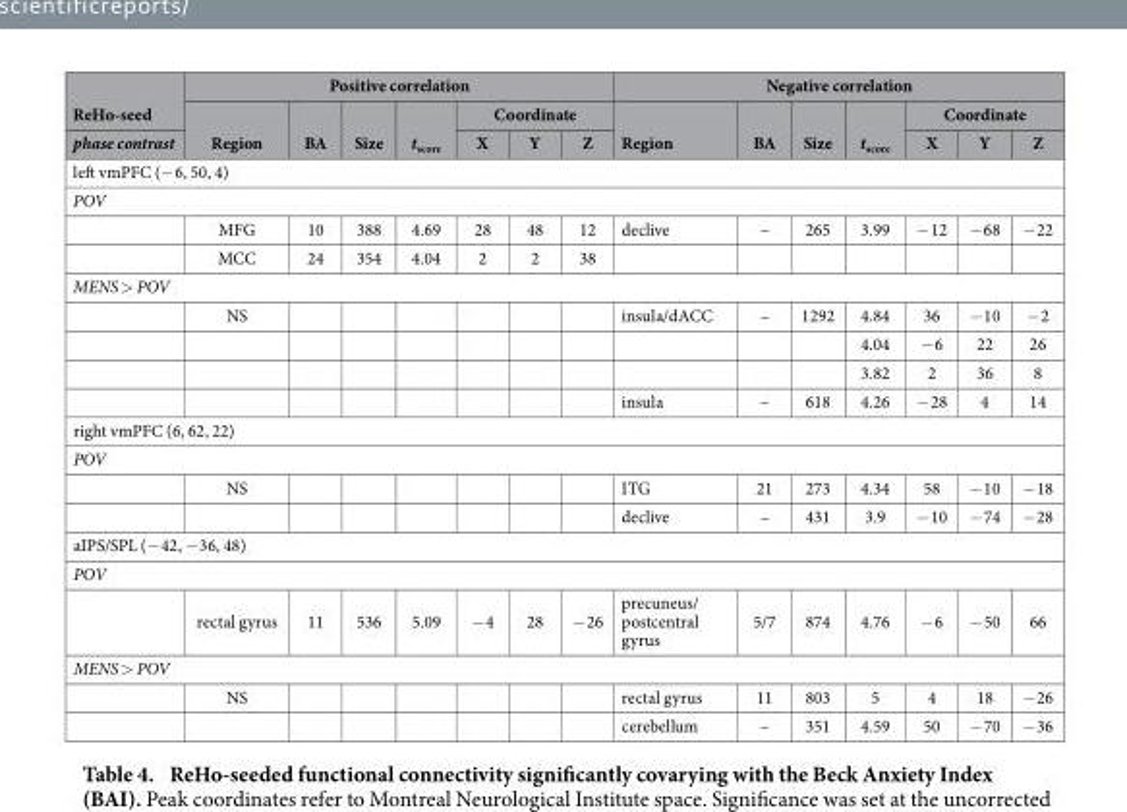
<table><thead><tr><td rowspan="3">ReHo-seed phase contrast</td><td colspan="7">Positive correlation</td><td colspan="7">Negative correlation</td></tr><tr><td rowspan="2">Region</td><td rowspan="2">BA</td><td rowspan="2">Size</td><td rowspan="2">t<sub>score</sub></td><td colspan="3">Coordinate</td><td rowspan="2">Region</td><td rowspan="2">BA</td><td rowspan="2">Size</td><td rowspan="2">t<sub>score</sub></td><td colspan="3">Coordinate</td></tr><tr><td>X</td><td>Y</td><td>Z</td><td>X</td><td>Y</td><td>Z</td></tr></thead><tbody><tr><td colspan="15">left vmPFC (− 6, 50, 4)</td></tr><tr><td colspan="15">POV</td></tr><tr><td></td><td>MFG</td><td>10</td><td>388</td><td>4.69</td><td>28</td><td>48</td><td>12</td><td>declive</td><td>–</td><td>265</td><td>3.99</td><td>− 12</td><td>− 68</td><td>− 22</td></tr><tr><td></td><td>MCC</td><td>24</td><td>354</td><td>4.04</td><td>2</td><td>2</td><td>38</td><td></td><td></td><td></td><td></td><td></td><td></td><td></td></tr><tr><td colspan="15">MENS &gt; POV</td></tr><tr><td></td><td>NS</td><td></td><td></td><td></td><td></td><td></td><td></td><td>insula/dACC</td><td>–</td><td>1292</td><td>4.84</td><td>36</td><td>− 10</td><td>− 2</td></tr><tr><td></td><td></td><td></td><td></td><td></td><td></td><td></td><td></td><td></td><td></td><td></td><td>4.04</td><td>− 6</td><td>22</td><td>26</td></tr><tr><td></td><td></td><td></td><td></td><td></td><td></td><td></td><td></td><td></td><td></td><td></td><td>3.82</td><td>2</td><td>36</td><td>8</td></tr><tr><td></td><td></td><td></td><td></td><td></td><td></td><td></td><td></td><td>insula</td><td>–</td><td>618</td><td>4.26</td><td>− 28</td><td>4</td><td>14</td></tr><tr><td colspan="15">right vmPFC (6, 62, 22)</td></tr><tr><td colspan="15">POV</td></tr><tr><td></td><td>NS</td><td></td><td></td><td></td><td></td><td></td><td></td><td>ITG</td><td>21</td><td>273</td><td>4.34</td><td>58</td><td>− 10</td><td>− 18</td></tr><tr><td></td><td></td><td></td><td></td><td></td><td></td><td></td><td></td><td>declive</td><td>–</td><td>431</td><td>3.9</td><td>− 10</td><td>− 74</td><td>− 28</td></tr><tr><td colspan="15">aIPS/SPL (− 42, − 36, 48)</td></tr><tr><td colspan="15">POV</td></tr><tr><td></td><td>rectal gyrus</td><td>11</td><td>536</td><td>5.09</td><td>− 4</td><td>28</td><td>− 26</td><td>precuneus/ postcentral gyrus</td><td>5/7</td><td>874</td><td>4.76</td><td>− 6</td><td>− 50</td><td>66</td></tr><tr><td colspan="15">MENS &gt; POV</td></tr><tr><td></td><td>NS</td><td></td><td></td><td></td><td></td><td></td><td></td><td>rectal gyrus</td><td>11</td><td>803</td><td>5</td><td>4</td><td>18</td><td>− 26</td></tr><tr><td></td><td></td><td></td><td></td><td></td><td></td><td></td><td></td><td>cerebellum</td><td>–</td><td>351</td><td>4.59</td><td>50</td><td>− 70</td><td>− 36</td></tr></tbody></table>